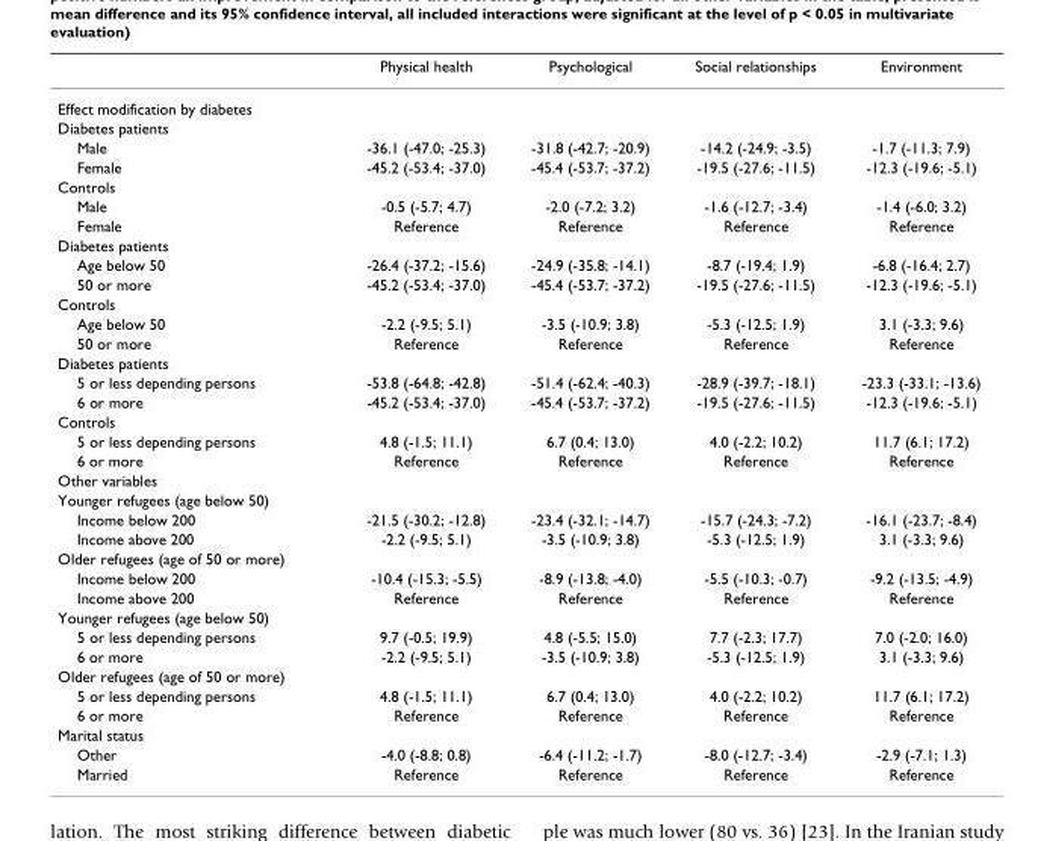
<table><thead><tr><td></td><td>Physical health</td><td>Psychological</td><td>Social relationships</td><td>Environment</td></tr></thead><tbody><tr><td colspan="5">Effect modification by diabetes</td></tr><tr><td colspan="5">Diabetes patients</td></tr><tr><td>Male</td><td>-36.1 (-47.0; -25.3)</td><td>-31.8 (-42.7; -20.9)</td><td>-14.2 (-24.9; -3.5)</td><td>-1.7 (-11.3; 7.9)</td></tr><tr><td>Female</td><td>-45.2 (-53.4; -37.0)</td><td>-45.4 (-53.7; -37.2)</td><td>-19.5 (-27.6; -11.5)</td><td>-12.3 (-19.6; -5.1)</td></tr><tr><td colspan="5">Controls</td></tr><tr><td>Male</td><td>-0.5 (-5.7; 4.7)</td><td>-2.0 (-7.2; 3.2)</td><td>-1.6 (-12.7; -3.4)</td><td>-1.4 (-6.0; 3.2)</td></tr><tr><td>Female</td><td>Reference</td><td>Reference</td><td>Reference</td><td>Reference</td></tr><tr><td colspan="5">Diabetes patients</td></tr><tr><td>Age below 50</td><td>-26.4 (-37.2; -15.6)</td><td>-24.9 (-35.8; -14.1)</td><td>-8.7 (-19.4; 1.9)</td><td>-6.8 (-16.4; 2.7)</td></tr><tr><td>50 or more</td><td>-45.2 (-53.4; -37.0)</td><td>-45.4 (-53.7; -37.2)</td><td>-19.5 (-27.6; -11.5)</td><td>-12.3 (-19.6; -5.1)</td></tr><tr><td colspan="5">Controls</td></tr><tr><td>Age below 50</td><td>-2.2 (-9.5; 5.1)</td><td>-3.5 (-10.9; 3.8)</td><td>-5.3 (-12.5; 1.9)</td><td>3.1 (-3.3; 9.6)</td></tr><tr><td>50 or more</td><td>Reference</td><td>Reference</td><td>Reference</td><td>Reference</td></tr><tr><td colspan="5">Diabetes patients</td></tr><tr><td>5 or less depending persons</td><td>-53.8 (-64.8; -42.8)</td><td>-51.4 (-62.4; -40.3)</td><td>-28.9 (-39.7; -18.1)</td><td>-23.3 (-33.1; -13.6)</td></tr><tr><td>6 or more</td><td>-45.2 (-53.4; -37.0)</td><td>-45.4 (-53.7; -37.2)</td><td>-19.5 (-27.6; -11.5)</td><td>-12.3 (-19.6; -5.1)</td></tr><tr><td colspan="5">Controls</td></tr><tr><td>5 or less depending persons</td><td>4.8 (-1.5; 11.1)</td><td>6.7 (0.4; 13.0)</td><td>4.0 (-2.2; 10.2)</td><td>11.7 (6.1; 17.2)</td></tr><tr><td>6 or more</td><td>Reference</td><td>Reference</td><td>Reference</td><td>Reference</td></tr><tr><td colspan="5">Other variables</td></tr><tr><td colspan="5">Younger refugees (age below 50)</td></tr><tr><td>Income below 200</td><td>-21.5 (-30.2; -12.8)</td><td>-23.4 (-32.1; -14.7)</td><td>-15.7 (-24.3; -7.2)</td><td>-16.1 (-23.7; -8.4)</td></tr><tr><td>Income above 200</td><td>-2.2 (-9.5; 5.1)</td><td>-3.5 (-10.9; 3.8)</td><td>-5.3 (-12.5; 1.9)</td><td>3.1 (-3.3; 9.6)</td></tr><tr><td colspan="5">Older refugees (age of 50 or more)</td></tr><tr><td>Income below 200</td><td>-10.4 (-15.3; -5.5)</td><td>-8.9 (-13.8; -4.0)</td><td>-5.5 (-10.3; -0.7)</td><td>-9.2 (-13.5; -4.9)</td></tr><tr><td>Income above 200</td><td>Reference</td><td>Reference</td><td>Reference</td><td>Reference</td></tr><tr><td colspan="5">Younger refugees (age below 50)</td></tr><tr><td>5 or less depending persons</td><td>9.7 (-0.5; 19.9)</td><td>4.8 (-5.5; 15.0)</td><td>7.7 (-2.3; 17.7)</td><td>7.0 (-2.0; 16.0)</td></tr><tr><td>6 or more</td><td>-2.2 (-9.5; 5.1)</td><td>-3.5 (-10.9; 3.8)</td><td>-5.3 (-12.5; 1.9)</td><td>3.1 (-3.3; 9.6)</td></tr><tr><td colspan="5">Older refugees (age of 50 or more)</td></tr><tr><td>5 or less depending persons</td><td>4.8 (-1.5; 11.1)</td><td>6.7 (0.4; 13.0)</td><td>4.0 (-2.2; 10.2)</td><td>11.7 (6.1; 17.2)</td></tr><tr><td>6 or more</td><td>Reference</td><td>Reference</td><td>Reference</td><td>Reference</td></tr><tr><td colspan="5">Marital status</td></tr><tr><td>Other</td><td>-4.0 (-8.8; 0.8)</td><td>-6.4 (-11.2; -1.7)</td><td>-8.0 (-12.7; -3.4)</td><td>-2.9 (-7.1; 1.3)</td></tr><tr><td>Married</td><td>Reference</td><td>Reference</td><td>Reference</td><td>Reference</td></tr></tbody></table>